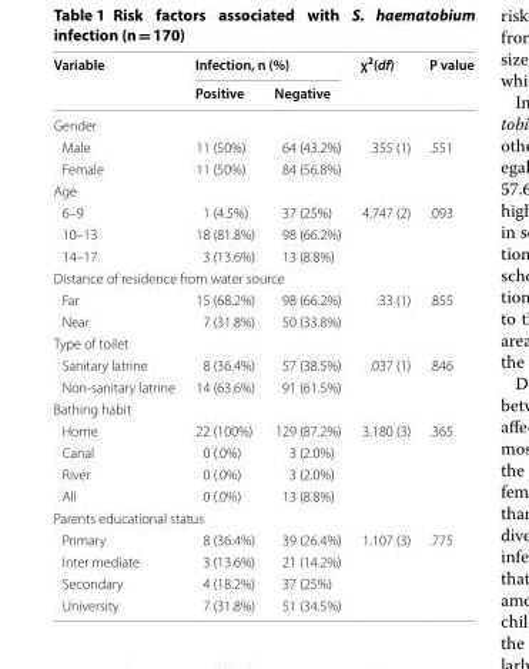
<table><thead><tr><td rowspan="2">Variable</td><td colspan="2">Infection, n (%)</td><td rowspan="2">χ<sup>2</sup>(df)</td><td rowspan="2">P value</td></tr><tr><td>Positive</td><td>Negative</td></tr></thead><tbody><tr><td colspan="5">Gender</td></tr><tr><td>Male</td><td>11 (50%)</td><td>64 (43.2%)</td><td>.355 (1)</td><td>.551</td></tr><tr><td>Female</td><td>11 (50%)</td><td>84 (56.8%)</td><td></td><td></td></tr><tr><td colspan="5">Age</td></tr><tr><td>6–9</td><td>1 (4.5%)</td><td>37 (25%)</td><td>4.747 (2)</td><td>.093</td></tr><tr><td>10–13</td><td>18 (81.8%)</td><td>98 (66.2%)</td><td></td><td></td></tr><tr><td>14–17</td><td>3 (13.6%)</td><td>13 (8.8%)</td><td></td><td></td></tr><tr><td colspan="5">Distance of residence from water source</td></tr><tr><td>Far</td><td>15 (68.2%)</td><td>98 (66.2%)</td><td>.33 (1)</td><td>.855</td></tr><tr><td>Near</td><td>7 (31.8%)</td><td>50 (33.8%)</td><td></td><td></td></tr><tr><td colspan="5">Type of toilet</td></tr><tr><td>Sanitary latrine</td><td>8 (36.4%)</td><td>57 (38.5%)</td><td>.037 (1)</td><td>.846</td></tr><tr><td>Non-sanitary latrine</td><td>14 (63.6%)</td><td>91 (61.5%)</td><td></td><td></td></tr><tr><td colspan="5">Bathing habit</td></tr><tr><td>Home</td><td>22 (100%)</td><td>129 (87.2%)</td><td>3.180 (3)</td><td>.365</td></tr><tr><td>Canal</td><td>0 (.0%)</td><td>3 (2.0%)</td><td></td><td></td></tr><tr><td>River</td><td>0 (.0%)</td><td>3 (2.0%)</td><td></td><td></td></tr><tr><td>All</td><td>0 (.0%)</td><td>13 (8.8%)</td><td></td><td></td></tr><tr><td colspan="5">Parents educational status</td></tr><tr><td>Primary</td><td>8 (36.4%)</td><td>39 (26.4%)</td><td>1.107 (3)</td><td>.775</td></tr><tr><td>Inter mediate</td><td>3 (13.6%)</td><td>21 (14.2%)</td><td></td><td></td></tr><tr><td>Secondary</td><td>4 (18.2%)</td><td>37 (25%)</td><td></td><td></td></tr><tr><td>University</td><td>7 (31.8%)</td><td>51 (34.5%)</td><td></td><td></td></tr></tbody></table>